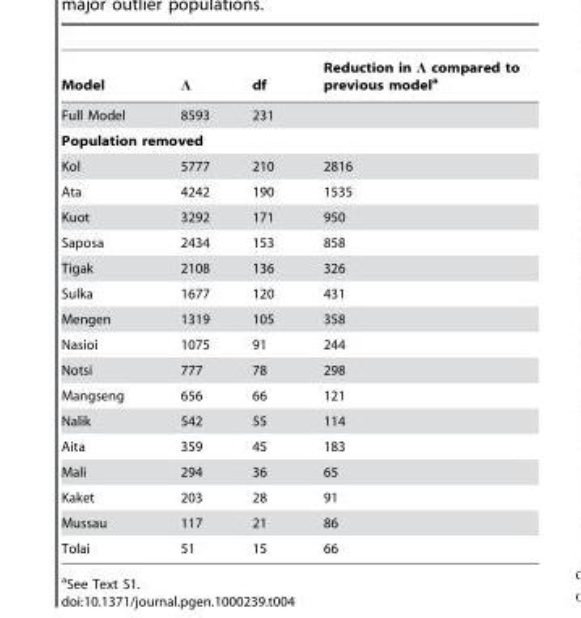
<table><thead><tr><td>Model</td><td>Λ</td><td>df</td><td>Reduction in Λ compared to previous model<sup>a</sup></td></tr></thead><tbody><tr><td>Full Model</td><td>8593</td><td>231</td><td></td></tr><tr><td colspan="4">Population removed</td></tr><tr><td>Kol</td><td>5777</td><td>210</td><td>2816</td></tr><tr><td>Ata</td><td>4242</td><td>190</td><td>1535</td></tr><tr><td>Kuot</td><td>3292</td><td>171</td><td>950</td></tr><tr><td>Saposa</td><td>2434</td><td>153</td><td>858</td></tr><tr><td>Tigak</td><td>2108</td><td>136</td><td>326</td></tr><tr><td>Sulka</td><td>1677</td><td>120</td><td>431</td></tr><tr><td>Mengen</td><td>1319</td><td>105</td><td>358</td></tr><tr><td>Nasioi</td><td>1075</td><td>91</td><td>244</td></tr><tr><td>Notsi</td><td>777</td><td>78</td><td>298</td></tr><tr><td>Mangseng</td><td>656</td><td>66</td><td>121</td></tr><tr><td>Nalik</td><td>542</td><td>55</td><td>114</td></tr><tr><td>Aita</td><td>359</td><td>45</td><td>183</td></tr><tr><td>Mali</td><td>294</td><td>36</td><td>65</td></tr><tr><td>Kaket</td><td>203</td><td>28</td><td>91</td></tr><tr><td>Mussau</td><td>117</td><td>21</td><td>86</td></tr><tr><td>Tolai</td><td>51</td><td>15</td><td>66</td></tr></tbody></table>